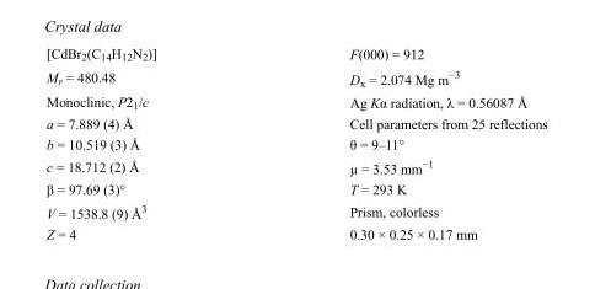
<table><tbody><tr><td>[CdBr<sub>2</sub>(C<sub>14</sub>H<sub>12</sub>N<sub>2</sub>)]</td><td>F(000) = 912</td></tr><tr><td>M<sub>r</sub> = 480.48</td><td>D<sub>x</sub> = 2.074 Mg m<sup>−3</sup></td></tr><tr><td>Monoclinic, P2<sub>1</sub>/c</td><td>Ag Kα radiation, λ = 0.56087 Å</td></tr><tr><td>a = 7.889 (4) Å</td><td>Cell parameters from 25 reflections</td></tr><tr><td>b = 10.519 (3) Å</td><td>θ = 9–11°</td></tr><tr><td>c = 18.712 (2) Å</td><td>µ = 3.53 mm<sup>−1</sup></td></tr><tr><td>β = 97.69 (3)°</td><td>T = 293 K</td></tr><tr><td>V = 1538.8 (9) Å<sup>3</sup></td><td>Prism, colorless</td></tr><tr><td>Z = 4</td><td>0.30 × 0.25 × 0.17 mm</td></tr></tbody></table>